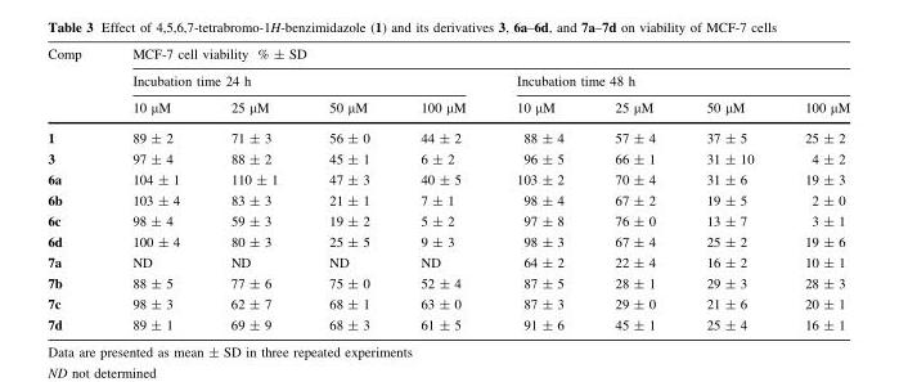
<table><thead><tr><td rowspan="3">Comp</td><td colspan="8">MCF-7 cell viability % ± SD</td></tr><tr><td colspan="4">Incubation time 24 h</td><td colspan="4">Incubation time 48 h</td></tr><tr><td>10 μM</td><td>25 μM</td><td>50 μM</td><td>100 μM</td><td>10 μM</td><td>25 μM</td><td>50 μM</td><td>100 μM</td></tr></thead><tbody><tr><td>1</td><td>89 ± 2</td><td>71 ± 3</td><td>56 ± 0</td><td>44 ± 2</td><td>88 ± 4</td><td>57 ± 4</td><td>37 ± 5</td><td>25 ± 2</td></tr><tr><td>3</td><td>97 ± 4</td><td>88 ± 2</td><td>45 ± 1</td><td>6 ± 2</td><td>96 ± 5</td><td>66 ± 1</td><td>31 ± 10</td><td>4 ± 2</td></tr><tr><td>6a</td><td>104 ± 1</td><td>110 ± 1</td><td>47 ± 3</td><td>40 ± 5</td><td>103 ± 2</td><td>70 ± 4</td><td>31 ± 6</td><td>19 ± 3</td></tr><tr><td>6b</td><td>103 ± 4</td><td>83 ± 3</td><td>21 ± 1</td><td>7 ± 1</td><td>98 ± 4</td><td>67 ± 2</td><td>19 ± 5</td><td>2 ± 0</td></tr><tr><td>6c</td><td>98 ± 4</td><td>59 ± 3</td><td>19 ± 2</td><td>5 ± 2</td><td>97 ± 8</td><td>76 ± 0</td><td>13 ± 7</td><td>3 ± 1</td></tr><tr><td>6d</td><td>100 ± 4</td><td>80 ± 3</td><td>25 ± 5</td><td>9 ± 3</td><td>98 ± 3</td><td>67 ± 4</td><td>25 ± 2</td><td>19 ± 6</td></tr><tr><td>7a</td><td>ND</td><td>ND</td><td>ND</td><td>ND</td><td>64 ± 2</td><td>22 ± 4</td><td>16 ± 2</td><td>10 ± 1</td></tr><tr><td>7b</td><td>88 ± 5</td><td>77 ± 6</td><td>75 ± 0</td><td>52 ± 4</td><td>87 ± 5</td><td>28 ± 1</td><td>29 ± 3</td><td>28 ± 3</td></tr><tr><td>7c</td><td>98 ± 3</td><td>62 ± 7</td><td>68 ± 1</td><td>63 ± 0</td><td>87 ± 3</td><td>29 ± 0</td><td>21 ± 6</td><td>20 ± 1</td></tr><tr><td>7d</td><td>89 ± 1</td><td>69 ± 9</td><td>68 ± 3</td><td>61 ± 5</td><td>91 ± 6</td><td>45 ± 1</td><td>25 ± 4</td><td>16 ± 1</td></tr></tbody></table>